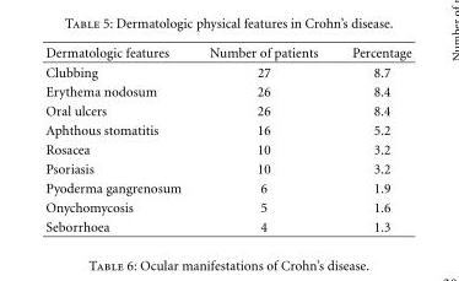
<table><thead><tr><td>Dermatologic features</td><td>Number of patients</td><td>Percentage</td></tr></thead><tbody><tr><td>Clubbing</td><td>27</td><td>8.7</td></tr><tr><td>Erythema nodosum</td><td>26</td><td>8.4</td></tr><tr><td>Oral ulcers</td><td>26</td><td>8.4</td></tr><tr><td>Aphthous stomatitis</td><td>16</td><td>5.2</td></tr><tr><td>Rosacea</td><td>10</td><td>3.2</td></tr><tr><td>Psoriasis</td><td>10</td><td>3.2</td></tr><tr><td>Pyoderma gangrenosum</td><td>6</td><td>1.9</td></tr><tr><td>Onychomycosis</td><td>5</td><td>1.6</td></tr><tr><td>Seborrhoea</td><td>4</td><td>1.3</td></tr></tbody></table>